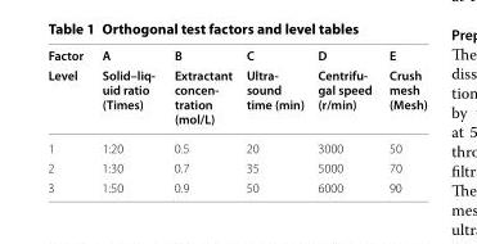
<table><thead><tr><td rowspan="2">Factor Level</td><td rowspan="2">A Solid–liq‑ uid ratio (Times)</td><td rowspan="2">B Extractant concen‑ tration (mol/L)</td><td rowspan="2">C Ultra‑ sound time (min)</td><td rowspan="2">D Centrifu‑ gal speed (r/min)</td><td rowspan="2">E Crush mesh (Mesh)</td></tr><tr></tr></thead><tbody><tr><td>1</td><td>1:20</td><td>0.5</td><td>20</td><td>3000</td><td>50</td></tr><tr><td>2</td><td>1:30</td><td>0.7</td><td>35</td><td>5000</td><td>70</td></tr><tr><td>3</td><td>1:50</td><td>0.9</td><td>50</td><td>6000</td><td>90</td></tr></tbody></table>